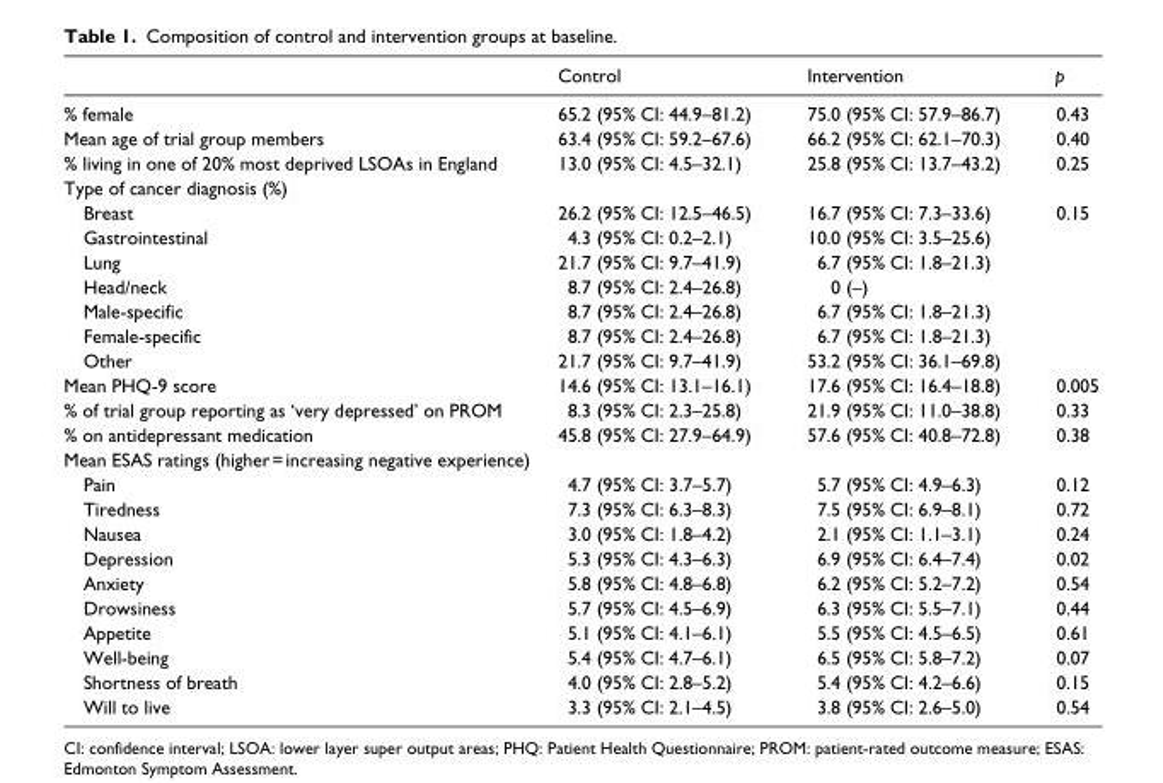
<table><thead><tr><td></td><td>Control</td><td>Intervention</td><td>p</td></tr></thead><tbody><tr><td>% female</td><td>65.2 (95% CI: 44.9–81.2)</td><td>75.0 (95% CI: 57.9–86.7)</td><td>0.43</td></tr><tr><td>Mean age of trial group members</td><td>63.4 (95% CI: 59.2–67.6)</td><td>66.2 (95% CI: 62.1–70.3)</td><td>0.40</td></tr><tr><td>% living in one of 20% most deprived LSOAs in England</td><td>13.0 (95% CI: 4.5–32.1)</td><td>25.8 (95% CI: 13.7–43.2)</td><td>0.25</td></tr><tr><td colspan="4">Type of cancer diagnosis (%)</td></tr><tr><td>Breast</td><td>26.2 (95% CI: 12.5–46.5)</td><td>16.7 (95% CI: 7.3–33.6)</td><td rowspan="7">0.15</td></tr><tr><td>Gastrointestinal</td><td>4.3 (95% CI: 0.2–2.1)</td><td>10.0 (95% CI: 3.5–25.6)</td></tr><tr><td>Lung</td><td>21.7 (95% CI: 9.7–41.9)</td><td>6.7 (95% CI: 1.8–21.3)</td></tr><tr><td>Head/neck</td><td>8.7 (95% CI: 2.4–26.8)</td><td>0 (–)</td></tr><tr><td>Male-specific</td><td>8.7 (95% CI: 2.4–26.8)</td><td>6.7 (95% CI: 1.8–21.3)</td></tr><tr><td>Female-specific</td><td>8.7 (95% CI: 2.4–26.8)</td><td>6.7 (95% CI: 1.8–21.3)</td></tr><tr><td>Other</td><td>21.7 (95% CI: 9.7–41.9)</td><td>53.2 (95% CI: 36.1–69.8)</td></tr><tr><td>Mean PHQ-9 score</td><td>14.6 (95% CI: 13.1–16.1)</td><td>17.6 (95% CI: 16.4–18.8)</td><td>0.005</td></tr><tr><td>% of trial group reporting as ‘very depressed’ on PROM</td><td>8.3 (95% CI: 2.3–25.8)</td><td>21.9 (95% CI: 11.0–38.8)</td><td>0.33</td></tr><tr><td>% on antidepressant medication</td><td>45.8 (95% CI: 27.9–64.9)</td><td>57.6 (95% CI: 40.8–72.8)</td><td>0.38</td></tr><tr><td colspan="4">Mean ESAS ratings (higher = increasing negative experience)</td></tr><tr><td>Pain</td><td>4.7 (95% CI: 3.7–5.7)</td><td>5.7 (95% CI: 4.9–6.3)</td><td>0.12</td></tr><tr><td>Tiredness</td><td>7.3 (95% CI: 6.3–8.3)</td><td>7.5 (95% CI: 6.9–8.1)</td><td>0.72</td></tr><tr><td>Nausea</td><td>3.0 (95% CI: 1.8–4.2)</td><td>2.1 (95% CI: 1.1–3.1)</td><td>0.24</td></tr><tr><td>Depression</td><td>5.3 (95% CI: 4.3–6.3)</td><td>6.9 (95% CI: 6.4–7.4)</td><td>0.02</td></tr><tr><td>Anxiety</td><td>5.8 (95% CI: 4.8–6.8)</td><td>6.2 (95% CI: 5.2–7.2)</td><td>0.54</td></tr><tr><td>Drowsiness</td><td>5.7 (95% CI: 4.5–6.9)</td><td>6.3 (95% CI: 5.5–7.1)</td><td>0.44</td></tr><tr><td>Appetite</td><td>5.1 (95% CI: 4.1–6.1)</td><td>5.5 (95% CI: 4.5–6.5)</td><td>0.61</td></tr><tr><td>Well-being</td><td>5.4 (95% CI: 4.7–6.1)</td><td>6.5 (95% CI: 5.8–7.2)</td><td>0.07</td></tr><tr><td>Shortness of breath</td><td>4.0 (95% CI: 2.8–5.2)</td><td>5.4 (95% CI: 4.2–6.6)</td><td>0.15</td></tr><tr><td>Will to live</td><td>3.3 (95% CI: 2.1–4.5)</td><td>3.8 (95% CI: 2.6–5.0)</td><td>0.54</td></tr></tbody></table>